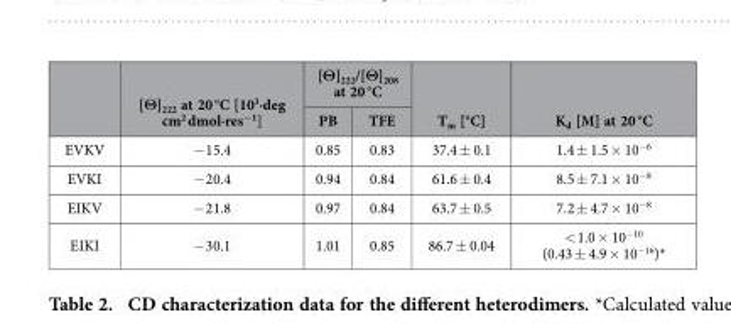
<table><thead><tr><td rowspan="2"></td><td rowspan="2">[Θ]<sub>222</sub> at 20 °C [10<sup>3</sup>∙deg cm<sup>2</sup> dmol∙res<sup>−1</sup>]</td><td colspan="2">[Θ]<sub>222</sub>/[Θ]<sub>208</sub> at 20 °C</td><td rowspan="2">T<sub>m</sub> [°C]</td><td rowspan="2">K<sub>d</sub> [M] at 20 °C</td></tr><tr><td>PB</td><td>TFE</td></tr></thead><tbody><tr><td>EVKV</td><td>− 15.4</td><td>0.85</td><td>0.83</td><td>37.4 ± 0.1</td><td>1.4 ± 1.5 × 10<sup>−6</sup></td></tr><tr><td>EVKI</td><td>− 20.4</td><td>0.94</td><td>0.84</td><td>61.6 ± 0.4</td><td>8.5 ± 7.1 × 10<sup>−8</sup></td></tr><tr><td>EIKV</td><td>− 21.8</td><td>0.97</td><td>0.84</td><td>63.7 ± 0.5</td><td>7.2 ± 4.7 × 10<sup>−8</sup></td></tr><tr><td>EIKI</td><td>− 30.1</td><td>1.01</td><td>0.85</td><td>86.7 ± 0.04</td><td>&lt; 1.0 × 10<sup>−10</sup> (0.43 ± 4.9 × 10<sup>−16</sup>)*</td></tr></tbody></table>